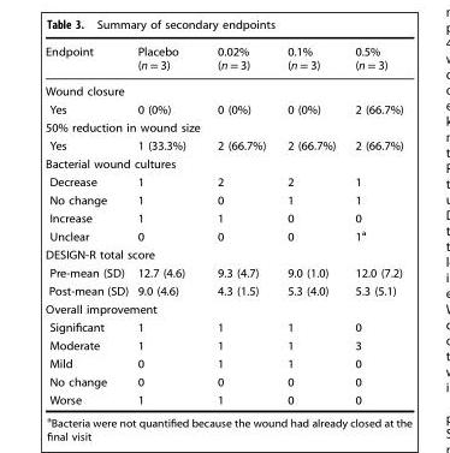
<table><thead><tr><td>Endpoint</td><td>Placebo (n = 3)</td><td>0.02% (n = 3)</td><td>0.1% (n = 3)</td><td>0.5% (n = 3)</td></tr></thead><tbody><tr><td colspan="5">Wound closure</td></tr><tr><td>Yes</td><td>0 (0%)</td><td>0 (0%)</td><td>0 (0%)</td><td>2 (66.7%)</td></tr><tr><td colspan="5">50% reduction in wound size</td></tr><tr><td>Yes</td><td>1 (33.3%)</td><td>2 (66.7%)</td><td>2 (66.7%)</td><td>2 (66.7%)</td></tr><tr><td colspan="5">Bacterial wound cultures</td></tr><tr><td>Decrease</td><td>1</td><td>2</td><td>2</td><td>1</td></tr><tr><td>No change</td><td>1</td><td>0</td><td>1</td><td>1</td></tr><tr><td>Increase</td><td>1</td><td>1</td><td>0</td><td>0</td></tr><tr><td>Unclear</td><td>0</td><td>0</td><td>0</td><td>1<sup>a</sup></td></tr><tr><td colspan="5">DESIGN-R total score</td></tr><tr><td>Pre-mean (SD)</td><td>12.7 (4.6)</td><td>9.3 (4.7)</td><td>9.0 (1.0)</td><td>12.0 (7.2)</td></tr><tr><td>Post-mean (SD)</td><td>9.0 (4.6)</td><td>4.3 (1.5)</td><td>5.3 (4.0)</td><td>5.3 (5.1)</td></tr><tr><td colspan="5">Overall improvement</td></tr><tr><td>Significant</td><td>1</td><td>1</td><td>1</td><td>0</td></tr><tr><td>Moderate</td><td>1</td><td>1</td><td>1</td><td>3</td></tr><tr><td>Mild</td><td>0</td><td>1</td><td>1</td><td>0</td></tr><tr><td>No change</td><td>0</td><td>0</td><td>0</td><td>0</td></tr><tr><td>Worse</td><td>1</td><td>1</td><td>0</td><td>0</td></tr></tbody></table>